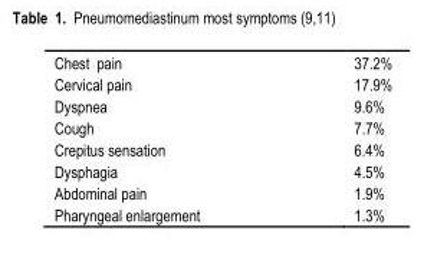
<table><tbody><tr><td>Chest pain</td><td>37.2%</td></tr><tr><td>Cervical pain</td><td>17.9%</td></tr><tr><td>Dyspnea</td><td>9.6%</td></tr><tr><td>Cough</td><td>7.7%</td></tr><tr><td>Crepitus sensation</td><td>6.4%</td></tr><tr><td>Dysphagia</td><td>4.5%</td></tr><tr><td>Abdominal pain</td><td>1.9%</td></tr><tr><td>Pharyngeal enlargement</td><td>1.3%</td></tr></tbody></table>